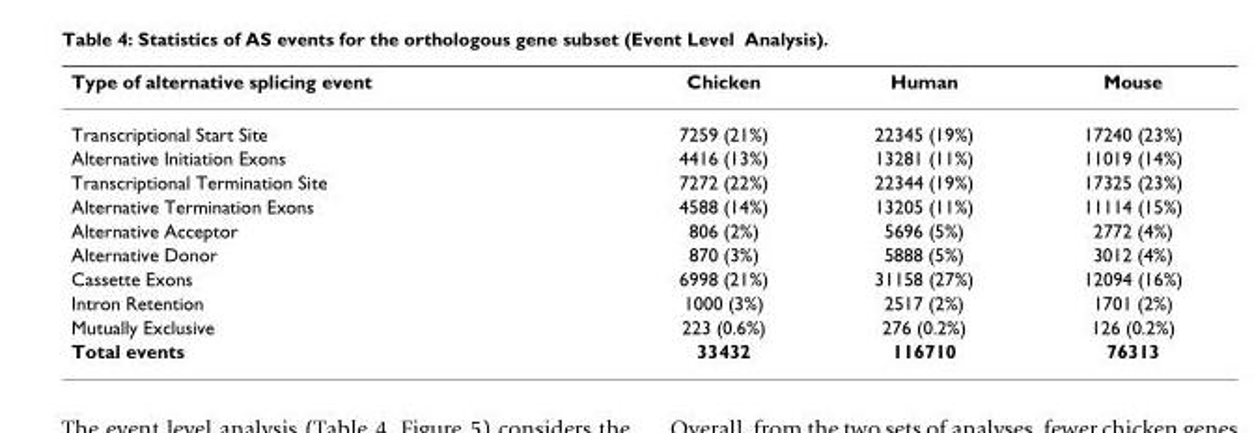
<table><thead><tr><td>Type of alternative splicing event</td><td>Chicken</td><td>Human</td><td>Mouse</td></tr></thead><tbody><tr><td>Transcriptional Start Site</td><td>7259 (21%)</td><td>22345 (19%)</td><td>17240 (23%)</td></tr><tr><td>Alternative Initiation Exons</td><td>4416 (13%)</td><td>13281 (11%)</td><td>11019 (14%)</td></tr><tr><td>Transcriptional Termination Site</td><td>7272 (22%)</td><td>22344 (19%)</td><td>17325 (23%)</td></tr><tr><td>Alternative Termination Exons</td><td>4588 (14%)</td><td>13205 (11%)</td><td>11114 (15%)</td></tr><tr><td>Alternative Acceptor</td><td>806 (2%)</td><td>5696 (5%)</td><td>2772 (4%)</td></tr><tr><td>Alternative Donor</td><td>870 (3%)</td><td>5888 (5%)</td><td>3012 (4%)</td></tr><tr><td>Cassette Exons</td><td>6998 (21%)</td><td>31158 (27%)</td><td>12094 (16%)</td></tr><tr><td>Intron Retention</td><td>1000 (3%)</td><td>2517 (2%)</td><td>1701 (2%)</td></tr><tr><td>Mutually Exclusive</td><td>223 (0.6%)</td><td>276 (0.2%)</td><td>126 (0.2%)</td></tr><tr><td>Total events</td><td>33432</td><td>116710</td><td>76313</td></tr></tbody></table>